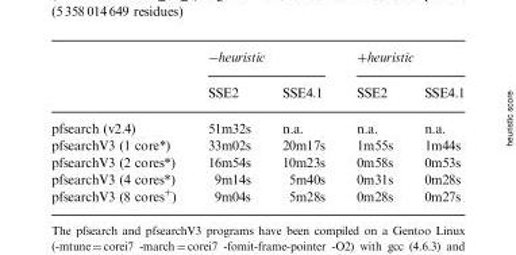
<table><thead><tr><td rowspan="2"></td><td colspan="2">−heuristic</td><td colspan="2">+heuristic</td></tr><tr><td>SSE2</td><td>SSE4.1</td><td>SSE2</td><td>SSE4.1</td></tr></thead><tbody><tr><td>pfsearch (v2.4)</td><td>51m32s</td><td>n.a.</td><td>n.a.</td><td>n.a.</td></tr><tr><td>pfsearchV3 (1 core*)</td><td>33m02s</td><td>20m17s</td><td>1m55s</td><td>1m44s</td></tr><tr><td>pfsearchV3 (2 cores*)</td><td>16m54s</td><td>10m23s</td><td>0m58s</td><td>0m53s</td></tr><tr><td>pfsearchV3 (4 cores*)</td><td>9m14s</td><td>5m40s</td><td>0m31s</td><td>0m28s</td></tr><tr><td>pfsearchV3 (8 cores<sup>+</sup>)</td><td>9m04s</td><td>5m28s</td><td>0m28s</td><td>0m27s</td></tr></tbody></table>